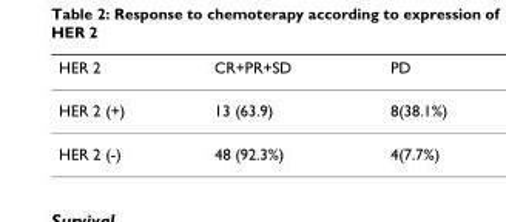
<table><thead><tr><td>HER 2</td><td>CR+PR+SD</td><td>PD</td></tr></thead><tbody><tr><td>HER 2 (+)</td><td>13 (63.9)</td><td>8(38.1%)</td></tr><tr><td>HER 2 (-)</td><td>48 (92.3%)</td><td>4(7.7%)</td></tr></tbody></table>